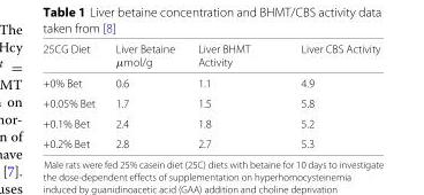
<table><thead><tr><td>25CG Diet</td><td>Liver Betaine μmol/g</td><td>Liver BHMT Activity</td><td>Liver CBS Activity</td></tr></thead><tbody><tr><td>+0% Bet</td><td>0.6</td><td>1.1</td><td>4.9</td></tr><tr><td>+0.05% Bet</td><td>1.7</td><td>1.5</td><td>5.8</td></tr><tr><td>+0.1% Bet</td><td>2.4</td><td>1.8</td><td>5.2</td></tr><tr><td>+0.2% Bet</td><td>2.8</td><td>2.7</td><td>5.3</td></tr></tbody></table>